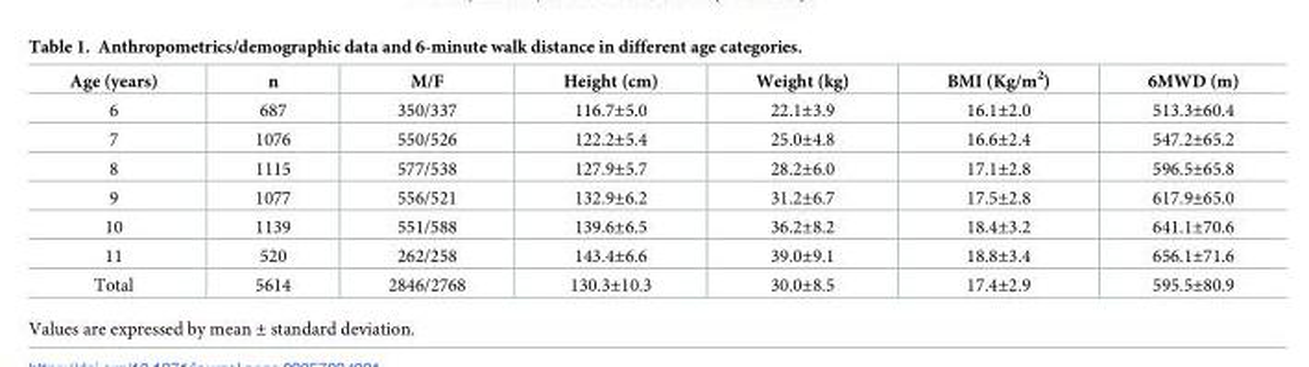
<table><thead><tr><td>Age (years)</td><td>n</td><td>M/F</td><td>Height (cm)</td><td>Weight (kg)</td><td>BMI (Kg/m<sup>2</sup>)</td><td>6MWD (m)</td></tr></thead><tbody><tr><td>6</td><td>687</td><td>350/337</td><td>116.7±5.0</td><td>22.1±3.9</td><td>16.1±2.0</td><td>513.3±60.4</td></tr><tr><td>7</td><td>1076</td><td>550/526</td><td>122.2±5.4</td><td>25.0±4.8</td><td>16.6±2.4</td><td>547.2±65.2</td></tr><tr><td>8</td><td>1115</td><td>577/538</td><td>127.9±5.7</td><td>28.2±6.0</td><td>17.1±2.8</td><td>596.5±65.8</td></tr><tr><td>9</td><td>1077</td><td>556/521</td><td>132.9±6.2</td><td>31.2±6.7</td><td>17.5±2.8</td><td>617.9±65.0</td></tr><tr><td>10</td><td>1139</td><td>551/588</td><td>139.6±6.5</td><td>36.2±8.2</td><td>18.4±3.2</td><td>641.1±70.6</td></tr><tr><td>11</td><td>520</td><td>262/258</td><td>143.4±6.6</td><td>39.0±9.1</td><td>18.8±3.4</td><td>656.1±71.6</td></tr><tr><td>Total</td><td>5614</td><td>2846/2768</td><td>130.3±10.3</td><td>30.0±8.5</td><td>17.4±2.9</td><td>595.5±80.9</td></tr></tbody></table>